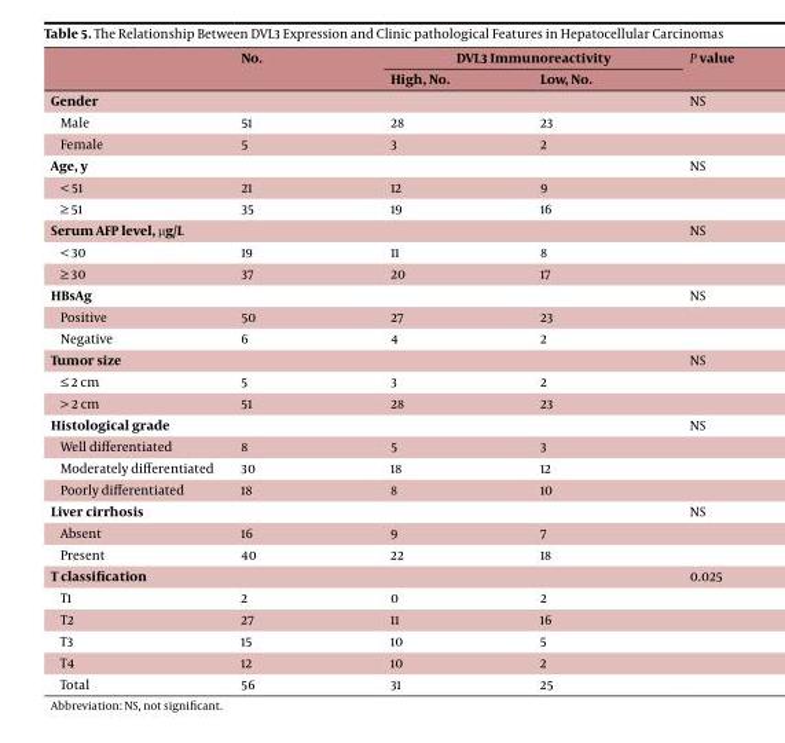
<table><thead><tr><td rowspan="2"></td><td rowspan="2">No.</td><td colspan="2">DVL3 Immunoreactivity</td><td rowspan="2">P value</td></tr><tr><td>High, No.</td><td>Low, No.</td></tr></thead><tbody><tr><td>Gender</td><td></td><td></td><td></td><td>NS</td></tr><tr><td>Male</td><td>51</td><td>28</td><td>23</td><td></td></tr><tr><td>Female</td><td>5</td><td>3</td><td>2</td><td></td></tr><tr><td>Age, y</td><td></td><td></td><td></td><td>NS</td></tr><tr><td>&lt; 51</td><td>21</td><td>12</td><td>9</td><td></td></tr><tr><td>≥ 51</td><td>35</td><td>19</td><td>16</td><td></td></tr><tr><td>Serum AFP level, µg/L</td><td></td><td></td><td></td><td>NS</td></tr><tr><td>&lt; 30</td><td>19</td><td>11</td><td>8</td><td></td></tr><tr><td>≥ 30</td><td>37</td><td>20</td><td>17</td><td></td></tr><tr><td>HBsAg</td><td></td><td></td><td></td><td>NS</td></tr><tr><td>Positive</td><td>50</td><td>27</td><td>23</td><td></td></tr><tr><td>Negative</td><td>6</td><td>4</td><td>2</td><td></td></tr><tr><td>Tumor size</td><td></td><td></td><td></td><td>NS</td></tr><tr><td>≤ 2 cm</td><td>5</td><td>3</td><td>2</td><td></td></tr><tr><td>&gt; 2 cm</td><td>51</td><td>28</td><td>23</td><td></td></tr><tr><td>Histological grade</td><td></td><td></td><td></td><td>NS</td></tr><tr><td>Well differentiated</td><td>8</td><td>5</td><td>3</td><td></td></tr><tr><td>Moderately differentiated</td><td>30</td><td>18</td><td>12</td><td></td></tr><tr><td>Poorly differentiated</td><td>18</td><td>8</td><td>10</td><td></td></tr><tr><td>Liver cirrhosis</td><td></td><td></td><td></td><td>NS</td></tr><tr><td>Absent</td><td>16</td><td>9</td><td>7</td><td></td></tr><tr><td>Present</td><td>40</td><td>22</td><td>18</td><td></td></tr><tr><td>T classification</td><td></td><td></td><td></td><td>0.025</td></tr><tr><td>T1</td><td>2</td><td>0</td><td>2</td><td></td></tr><tr><td>T2</td><td>27</td><td>11</td><td>16</td><td></td></tr><tr><td>T3</td><td>15</td><td>10</td><td>5</td><td></td></tr><tr><td>T4</td><td>12</td><td>10</td><td>2</td><td></td></tr><tr><td>Total</td><td>56</td><td>31</td><td>25</td><td></td></tr></tbody></table>